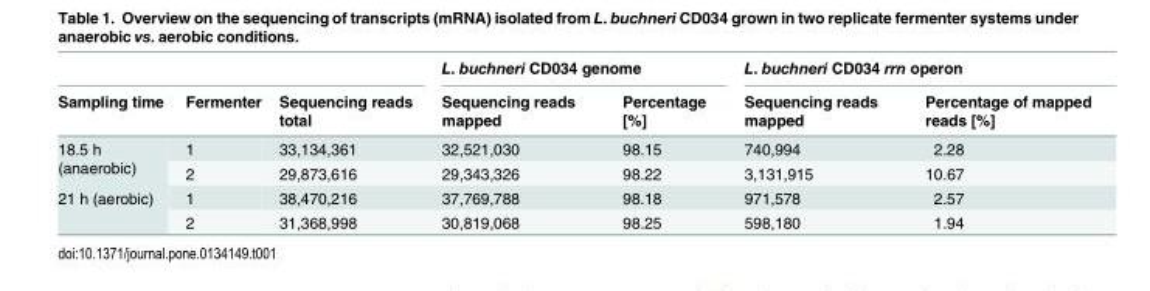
<table><thead><tr><td rowspan="2">Sampling time</td><td rowspan="2">Fermenter</td><td rowspan="2">Sequencing reads total</td><td colspan="2">L. buchneri CD034 genome</td><td colspan="2">L. buchneri CD034 rrn operon</td></tr><tr><td>Sequencing reads mapped</td><td>Percentage [%]</td><td>Sequencing reads mapped</td><td>Percentage of mapped reads [%]</td></tr></thead><tbody><tr><td rowspan="2">18.5 h (anaerobic)</td><td>1</td><td>33,134,361</td><td>32,521,030</td><td>98.15</td><td>740,994</td><td>2.28</td></tr><tr><td>2</td><td>29,873,616</td><td>29,343,326</td><td>98.22</td><td>3,131,915</td><td>10.67</td></tr><tr><td rowspan="2">21 h (aerobic)</td><td>1</td><td>38,470,216</td><td>37,769,788</td><td>98.18</td><td>971,578</td><td>2.57</td></tr><tr><td>2</td><td>31,368,998</td><td>30,819,068</td><td>98.25</td><td>598,180</td><td>1.94</td></tr></tbody></table>